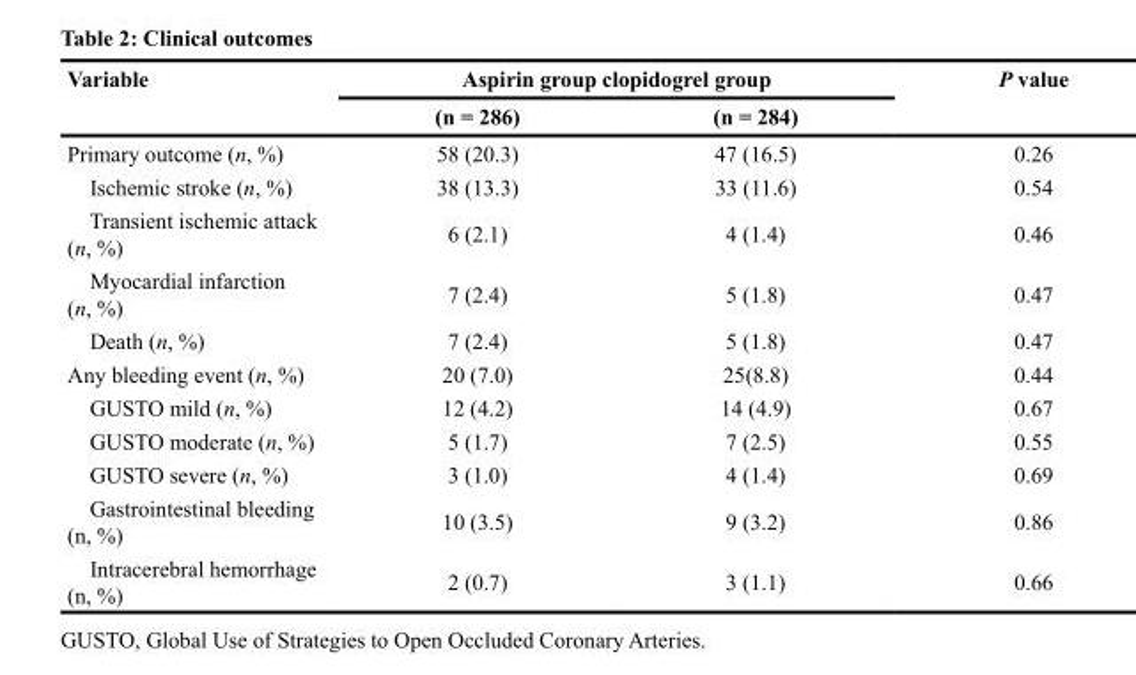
<table><thead><tr><td rowspan="2">Variable</td><td colspan="2">Aspirin group clopidogrel group</td><td rowspan="2">P value</td></tr><tr><td>(n = 286)</td><td>(n = 284)</td></tr></thead><tbody><tr><td>Primary outcome (n, %)</td><td>58 (20.3)</td><td>47 (16.5)</td><td>0.26</td></tr><tr><td>Ischemic stroke (n, %)</td><td>38 (13.3)</td><td>33 (11.6)</td><td>0.54</td></tr><tr><td>Transient ischemic attack (n, %)</td><td>6 (2.1)</td><td>4 (1.4)</td><td>0.46</td></tr><tr><td>Myocardial infarction (n, %)</td><td>7 (2.4)</td><td>5 (1.8)</td><td>0.47</td></tr><tr><td>Death (n, %)</td><td>7 (2.4)</td><td>5 (1.8)</td><td>0.47</td></tr><tr><td>Any bleeding event (n, %)</td><td>20 (7.0)</td><td>25(8.8)</td><td>0.44</td></tr><tr><td>GUSTO mild (n, %)</td><td>12 (4.2)</td><td>14 (4.9)</td><td>0.67</td></tr><tr><td>GUSTO moderate (n, %)</td><td>5 (1.7)</td><td>7 (2.5)</td><td>0.55</td></tr><tr><td>GUSTO severe (n, %)</td><td>3 (1.0)</td><td>4 (1.4)</td><td>0.69</td></tr><tr><td>Gastrointestinal bleeding (n, %)</td><td>10 (3.5)</td><td>9 (3.2)</td><td>0.86</td></tr><tr><td>Intracerebral hemorrhage (n, %)</td><td>2 (0.7)</td><td>3 (1.1)</td><td>0.66</td></tr></tbody></table>